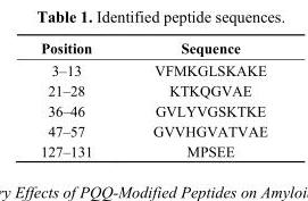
<table><thead><tr><td>Position</td><td>Sequence</td></tr></thead><tbody><tr><td>3–13</td><td>VFMKGLSKAKE</td></tr><tr><td>21–28</td><td>KTKQGVAE</td></tr><tr><td>36–46</td><td>GVLYVGSKTKE</td></tr><tr><td>47–57</td><td>GVVHGVATVAE</td></tr><tr><td>127–131</td><td>MPSEE</td></tr></tbody></table>